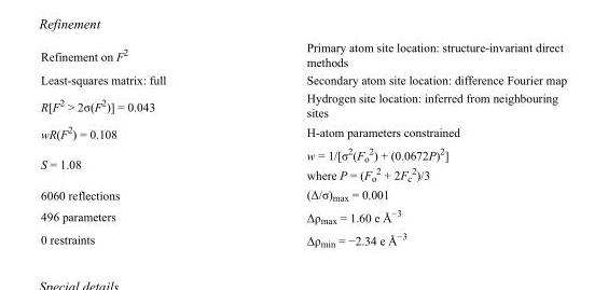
<table><tbody><tr><td>Refinement on F<sup>2</sup></td><td>Primary atom site location: structure-invariant direct methods</td></tr><tr><td>Least-squares matrix: full</td><td>Secondary atom site location: difference Fourier map</td></tr><tr><td>R[F<sup>2</sup> &gt; 2σ(F<sup>2</sup>)] = 0.043</td><td>Hydrogen site location: inferred from neighbouring sites</td></tr><tr><td>wR(F<sup>2</sup>) = 0.108</td><td>H-atom parameters constrained</td></tr><tr><td>S = 1.08</td><td>w = 1/[σ<sup>2</sup>(F<sub>o</sub> <sup>2</sup>) + (0.0672P)<sup>2</sup>] where P = (F<sub>o</sub> <sup>2</sup> + 2F<sub>c</sub> <sup>2</sup>)/3</td></tr><tr><td>6060 reflections</td><td>(Δ/σ)<sub>max</sub> = 0.001</td></tr><tr><td>496 parameters</td><td>Δρ<sub>max</sub> = 1.60 e Å<sup>−3</sup></td></tr><tr><td>0 restraints</td><td>Δρ<sub>min</sub> = −2.34 e Å<sup>−3</sup></td></tr></tbody></table>